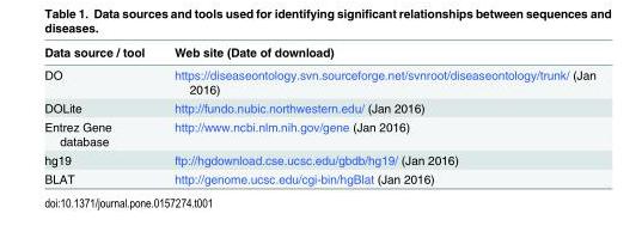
<table><thead><tr><td>Data source / tool</td><td>Web site (Date of download)</td></tr></thead><tbody><tr><td>DO</td><td>https://diseaseontology.svn.sourceforge.net/svnroot/diseaseontology/trunk/ (Jan 2016)</td></tr><tr><td>DOLite</td><td>http://fundo.nubic.northwestern.edu/ (Jan 2016)</td></tr><tr><td>Entrez Gene database</td><td>http://www.ncbi.nlm.nih.gov/gene (Jan 2016)</td></tr><tr><td>hg19</td><td>ftp://hgdownload.cse.ucsc.edu/gbdb/hg19/ (Jan 2016)</td></tr><tr><td>BLAT</td><td>http://genome.ucsc.edu/cgi-bin/hgBlat (Jan 2016)</td></tr></tbody></table>